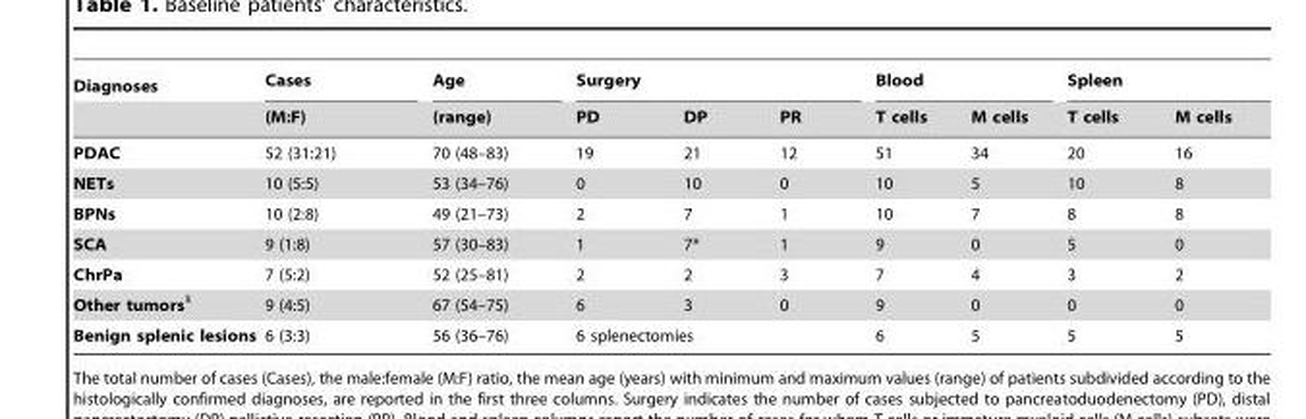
<table><thead><tr><td rowspan="2">Diagnoses</td><td rowspan="2">Cases (M:F)</td><td rowspan="2">Age (range)</td><td colspan="3">Surgery</td><td colspan="2">Blood</td><td colspan="2">Spleen</td></tr><tr><td>PD</td><td>DP</td><td>PR</td><td>T cells</td><td>M cells</td><td>T cells</td><td>M cells</td></tr></thead><tbody><tr><td>PDAC</td><td>52 (31:21)</td><td>70 (48–83)</td><td>19</td><td>21</td><td>12</td><td>51</td><td>34</td><td>20</td><td>16</td></tr><tr><td>NETs</td><td>10 (5:5)</td><td>53 (34–76)</td><td>0</td><td>10</td><td>0</td><td>10</td><td>5</td><td>10</td><td>8</td></tr><tr><td>BPNs</td><td>10 (2:8)</td><td>49 (21–73)</td><td>2</td><td>7</td><td>1</td><td>10</td><td>7</td><td>8</td><td>8</td></tr><tr><td>SCA</td><td>9 (1:8)</td><td>57 (30–83)</td><td>1</td><td>7*</td><td>1</td><td>9</td><td>0</td><td>5</td><td>0</td></tr><tr><td>ChrPa</td><td>7 (5:2)</td><td>52 (25–81)</td><td>2</td><td>2</td><td>3</td><td>7</td><td>4</td><td>3</td><td>2</td></tr><tr><td>Other tumors§</td><td>9 (4:5)</td><td>67 (54–75)</td><td>6</td><td>3</td><td>0</td><td>9</td><td>0</td><td>0</td><td>0</td></tr><tr><td>Benign splenic lesions</td><td>6 (3:3)</td><td>56 (36–76)</td><td colspan="3">6 splenectomies</td><td>6</td><td>5</td><td>5</td><td>5</td></tr></tbody></table>